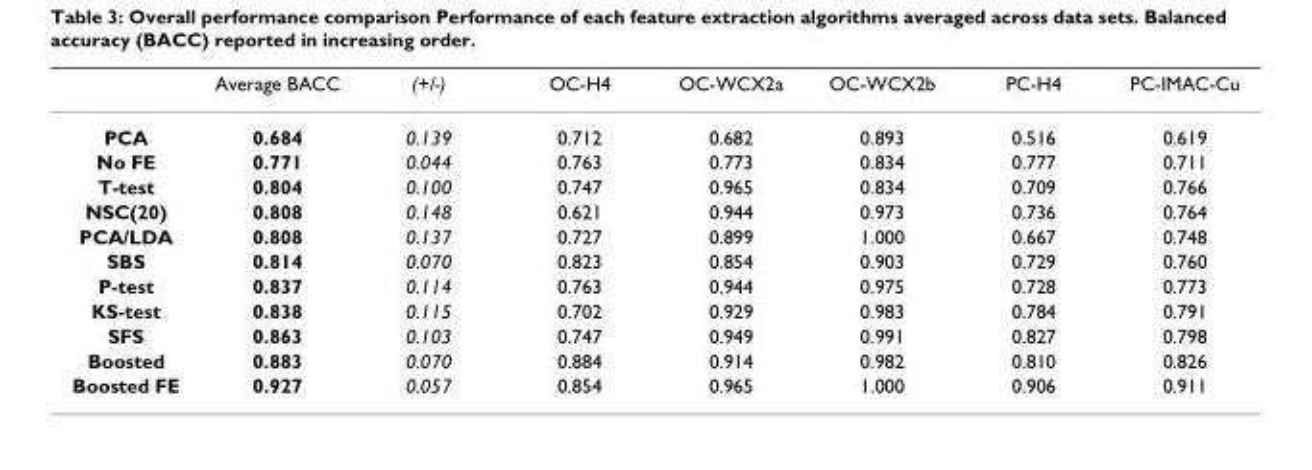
<table><thead><tr><td></td><td>Average BACC</td><td>(+/-)</td><td>OC-H4</td><td>OC-WCX2a</td><td>OC-WCX2b</td><td>PC-H4</td><td>PC-IMAC-Cu</td></tr></thead><tbody><tr><td>PCA</td><td>0.684</td><td>0.139</td><td>0.712</td><td>0.682</td><td>0.893</td><td>0.516</td><td>0.619</td></tr><tr><td>No FE</td><td>0.771</td><td>0.044</td><td>0.763</td><td>0.773</td><td>0.834</td><td>0.777</td><td>0.711</td></tr><tr><td>T-test</td><td>0.804</td><td>0.100</td><td>0.747</td><td>0.965</td><td>0.834</td><td>0.709</td><td>0.766</td></tr><tr><td>NSC(20)</td><td>0.808</td><td>0.148</td><td>0.621</td><td>0.944</td><td>0.973</td><td>0.736</td><td>0.764</td></tr><tr><td>PCA/LDA</td><td>0.808</td><td>0.137</td><td>0.727</td><td>0.899</td><td>1.000</td><td>0.667</td><td>0.748</td></tr><tr><td>SBS</td><td>0.814</td><td>0.070</td><td>0.823</td><td>0.854</td><td>0.903</td><td>0.729</td><td>0.760</td></tr><tr><td>P-test</td><td>0.837</td><td>0.114</td><td>0.763</td><td>0.944</td><td>0.975</td><td>0.728</td><td>0.773</td></tr><tr><td>KS-test</td><td>0.838</td><td>0.115</td><td>0.702</td><td>0.929</td><td>0.983</td><td>0.784</td><td>0.791</td></tr><tr><td>SFS</td><td>0.863</td><td>0.103</td><td>0.747</td><td>0.949</td><td>0.991</td><td>0.827</td><td>0.798</td></tr><tr><td>Boosted</td><td>0.883</td><td>0.070</td><td>0.884</td><td>0.914</td><td>0.982</td><td>0.810</td><td>0.826</td></tr><tr><td>Boosted FE</td><td>0.927</td><td>0.057</td><td>0.854</td><td>0.965</td><td>1.000</td><td>0.906</td><td>0.911</td></tr></tbody></table>